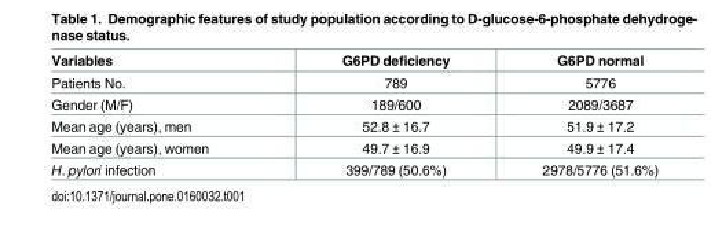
<table><thead><tr><td>Variables</td><td>G6PD deficiency</td><td>G6PD normal</td></tr></thead><tbody><tr><td>Patients No.</td><td>789</td><td>5776</td></tr><tr><td>Gender (M/F)</td><td>189/600</td><td>2089/3687</td></tr><tr><td>Mean age (years), men</td><td>52.8 ± 16.7</td><td>51.9 ± 17.2</td></tr><tr><td>Mean age (years), women</td><td>49.7 ± 16.9</td><td>49.9 ± 17.4</td></tr><tr><td>H. pylori infection</td><td>399/789 (50.6%)</td><td>2978/5776 (51.6%)</td></tr></tbody></table>